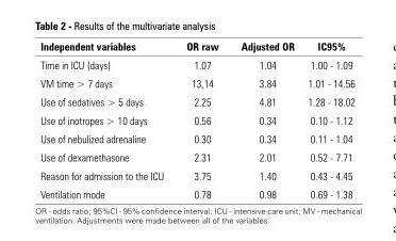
<table><thead><tr><td>Independent variables</td><td>OR raw</td><td>Adjusted OR</td><td>IC95%</td></tr></thead><tbody><tr><td>Time in ICU (days)</td><td>1.07</td><td>1.04</td><td>1.00 - 1.09</td></tr><tr><td>VM time &gt; 7 days</td><td>13,14</td><td>3.84</td><td>1.01 - 14.56</td></tr><tr><td>Use of sedatives &gt; 5 days</td><td>2.25</td><td>4.81</td><td>1.28 - 18.02</td></tr><tr><td>Use of inotropes &gt; 10 days</td><td>0.56</td><td>0.34</td><td>0.10 - 1.12</td></tr><tr><td>Use of nebulized adrenaline</td><td>0.30</td><td>0.34</td><td>0.11 - 1.04</td></tr><tr><td>Use of dexamethasone</td><td>2.31</td><td>2.01</td><td>0.52 - 7.71</td></tr><tr><td>Reason for admission to the ICU</td><td>3.75</td><td>1.40</td><td>0.43 - 4.45</td></tr><tr><td>Ventilation mode</td><td>0.78</td><td>0.98</td><td>0.69 - 1.38</td></tr></tbody></table>